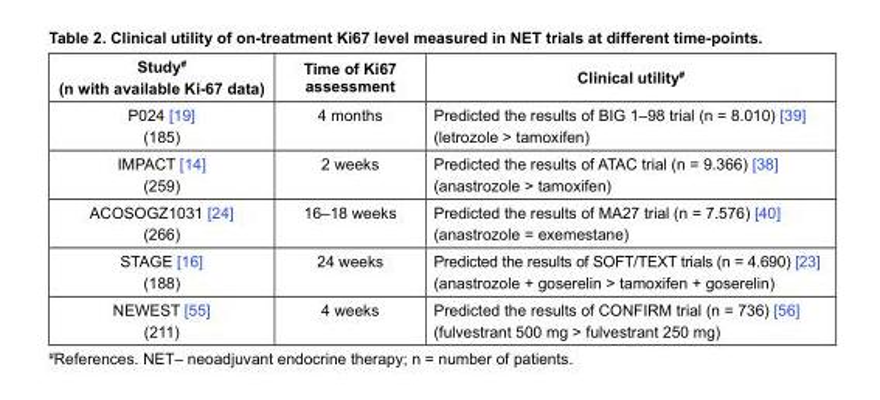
<table><thead><tr><td>Study<sup>#</sup> (n with available Ki-67 data)</td><td>Time of Ki67 assessment</td><td>Clinical utility<sup>#</sup></td></tr></thead><tbody><tr><td>P024 [19] (185)</td><td>4 months</td><td>Predicted the results of BIG 1–98 trial (n = 8.010) [39] (letrozole &gt; tamoxifen)</td></tr><tr><td>IMPACT [14] (259)</td><td>2 weeks</td><td>Predicted the results of ATAC trial (n = 9.366) [38] (anastrozole &gt; tamoxifen)</td></tr><tr><td>ACOSOGZ1031 [24] (266)</td><td>16–18 weeks</td><td>Predicted the results of MA27 trial (n = 7.576) [40] (anastrozole = exemestane)</td></tr><tr><td>STAGE [16] (188)</td><td>24 weeks</td><td>Predicted the results of SOFT/TEXT trials (n = 4.690) [23] (anastrozole + goserelin &gt; tamoxifen + goserelin)</td></tr><tr><td>NEWEST [55] (211)</td><td>4 weeks</td><td>Predicted the results of CONFIRM trial (n = 736) [56] (fulvestrant 500 mg &gt; fulvestrant 250 mg)</td></tr></tbody></table>